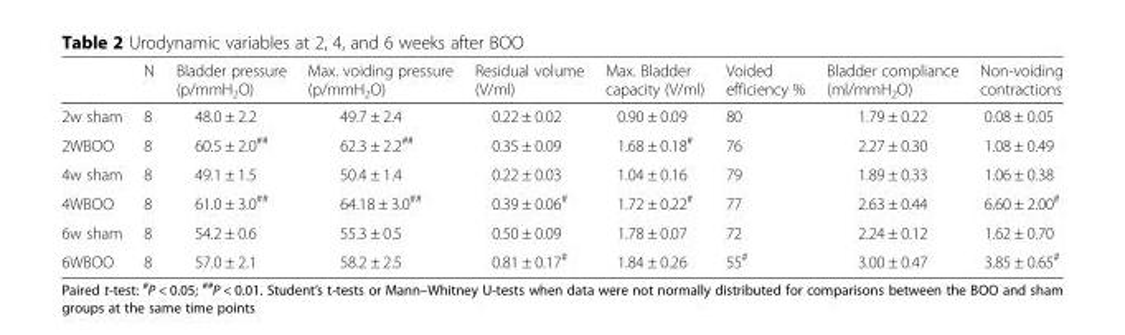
<table><thead><tr><td></td><td>N</td><td>Bladder pressure (p/mmH<sub>2</sub>O)</td><td>Max. voiding pressure (p/mmH<sub>2</sub>O)</td><td>Residual volume (V/ml)</td><td>Max. Bladder capacity (V/ml)</td><td>Voided efficiency %</td><td>Bladder compliance (ml/mmH<sub>2</sub>O)</td><td>Non-voiding contractions</td></tr></thead><tbody><tr><td>2w sham</td><td>8</td><td>48.0 ± 2.2</td><td>49.7 ± 2.4</td><td>0.22 ± 0.02</td><td>0.90 ± 0.09</td><td>80</td><td>1.79 ± 0.22</td><td>0.08 ± 0.05</td></tr><tr><td>2WBOO</td><td>8</td><td>60.5 ± 2.0<sup>##</sup></td><td>62.3 ± 2.2<sup>##</sup></td><td>0.35 ± 0.09</td><td>1.68 ± 0.18<sup>#</sup></td><td>76</td><td>2.27 ± 0.30</td><td>1.08 ± 0.49</td></tr><tr><td>4w sham</td><td>8</td><td>49.1 ± 1.5</td><td>50.4 ± 1.4</td><td>0.22 ± 0.03</td><td>1.04 ± 0.16</td><td>79</td><td>1.89 ± 0.33</td><td>1.06 ± 0.38</td></tr><tr><td>4WBOO</td><td>8</td><td>61.0 ± 3.0<sup>##</sup></td><td>64.18 ± 3.0<sup>##</sup></td><td>0.39 ± 0.06<sup>#</sup></td><td>1.72 ± 0.22<sup>#</sup></td><td>77</td><td>2.63 ± 0.44</td><td>6.60 ± 2.00<sup>#</sup></td></tr><tr><td>6w sham</td><td>8</td><td>54.2 ± 0.6</td><td>55.3 ± 0.5</td><td>0.50 ± 0.09</td><td>1.78 ± 0.07</td><td>72</td><td>2.24 ± 0.12</td><td>1.62 ± 0.70</td></tr><tr><td>6WBOO</td><td>8</td><td>57.0 ± 2.1</td><td>58.2 ± 2.5</td><td>0.81 ± 0.17<sup>#</sup></td><td>1.84 ± 0.26</td><td>55<sup>#</sup></td><td>3.00 ± 0.47</td><td>3.85 ± 0.65<sup>#</sup></td></tr></tbody></table>